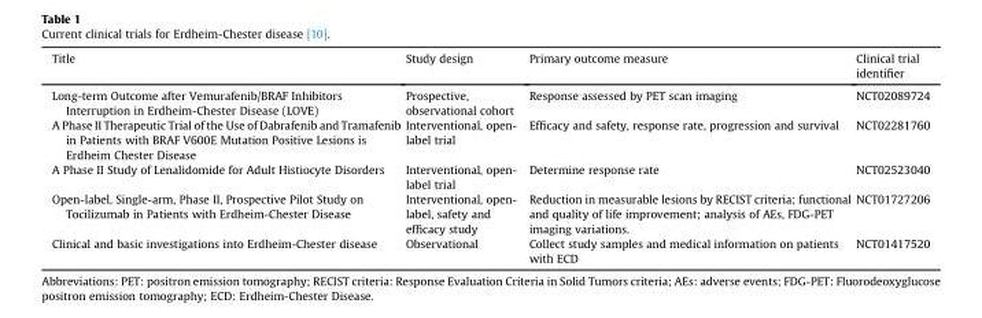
<table><thead><tr><td>Title</td><td>Study design</td><td>Primary outcome measure</td><td>Clinical trial identifier</td></tr></thead><tbody><tr><td>Long-term Outcome after Vemurafenib/BRAF Inhibitors Interruption in Erdheim-Chester Disease (LOVE)</td><td>Prospective, observational cohort</td><td>Response assessed by PET scan imaging</td><td>NCT02089724</td></tr><tr><td>A Phase II Therapeutic Trial of the Use of Dabrafenib and Tramafenib in Patients with BRAF V600E Mutation Positive Lesions is Erdheim Chester Disease</td><td>Interventional, open- label trial</td><td>Efficacy and safety, response rate, progression and survival</td><td>NCT02281760</td></tr><tr><td>A Phase II Study of Lenalidomide for Adult Histiocyte Disorders</td><td>Interventional, open- label trial</td><td>Determine response rate</td><td>NCT02523040</td></tr><tr><td>Open-label, Single-arm, Phase II, Prospective Pilot Study on Tocilizumab in Patients with Erdheim-Chester Disease</td><td>Interventional, open- label, safety and efficacy study</td><td>Reduction in measurable lesions by RECIST criteria; functional and quality of life improvement; analysis of AEs, FDG-PET imaging variations.</td><td>NCT01727206</td></tr><tr><td>Clinical and basic investigations into Erdheim-Chester disease</td><td>Observational</td><td>Collect study samples and medical information on patients with ECD</td><td>NCT01417520</td></tr></tbody></table>